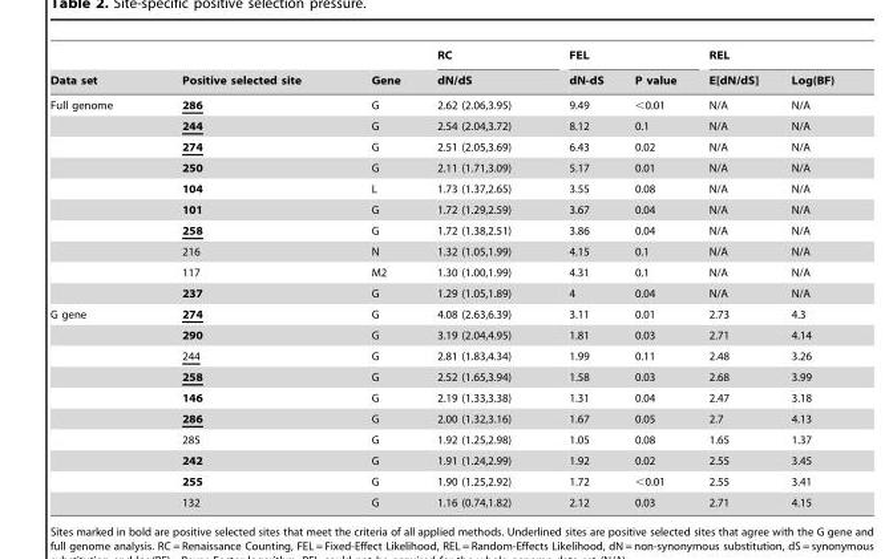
<table><thead><tr><td rowspan="2">Data set</td><td rowspan="2">Positive selected site</td><td rowspan="2">Gene</td><td rowspan="2">RC dN/dS</td><td colspan="2">FEL</td><td colspan="2">REL</td></tr><tr><td>dN-dS</td><td>P value</td><td>E[dN/dS]</td><td>Log(BF)</td></tr></thead><tbody><tr><td rowspan="10">Full genome</td><td>286</td><td>G</td><td>2.62 (2.06,3.95)</td><td>9.49</td><td>&lt;0.01</td><td>N/A</td><td>N/A</td></tr><tr><td>244</td><td>G</td><td>2.54 (2.04,3.72)</td><td>8.12</td><td>0.1</td><td>N/A</td><td>N/A</td></tr><tr><td>274</td><td>G</td><td>2.51 (2.05,3.69)</td><td>6.43</td><td>0.02</td><td>N/A</td><td>N/A</td></tr><tr><td>250</td><td>G</td><td>2.11 (1.71,3.09)</td><td>5.17</td><td>0.01</td><td>N/A</td><td>N/A</td></tr><tr><td>104</td><td>L</td><td>1.73 (1.37,2.65)</td><td>3.55</td><td>0.08</td><td>N/A</td><td>N/A</td></tr><tr><td>101</td><td>G</td><td>1.72 (1.29,2.59)</td><td>3.67</td><td>0.04</td><td>N/A</td><td>N/A</td></tr><tr><td>258</td><td>G</td><td>1.72 (1.38,2.51)</td><td>3.86</td><td>0.04</td><td>N/A</td><td>N/A</td></tr><tr><td>216</td><td>N</td><td>1.32 (1.05,1.99)</td><td>4.15</td><td>0.1</td><td>N/A</td><td>N/A</td></tr><tr><td>117</td><td>M2</td><td>1.30 (1.00,1.99)</td><td>4.31</td><td>0.1</td><td>N/A</td><td>N/A</td></tr><tr><td>237</td><td>G</td><td>1.29 (1.05,1.89)</td><td>4</td><td>0.04</td><td>N/A</td><td>N/A</td></tr><tr><td rowspan="10">G gene</td><td>274</td><td>G</td><td>4.08 (2.63,6.39)</td><td>3.11</td><td>0.01</td><td>2.73</td><td>4.3</td></tr><tr><td>290</td><td>G</td><td>3.19 (2.04,4.95)</td><td>1.81</td><td>0.03</td><td>2.71</td><td>4.14</td></tr><tr><td>244</td><td>G</td><td>2.81 (1.83,4.34)</td><td>1.99</td><td>0.11</td><td>2.48</td><td>3.26</td></tr><tr><td>258</td><td>G</td><td>2.52 (1.65,3.94)</td><td>1.58</td><td>0.03</td><td>2.68</td><td>3.99</td></tr><tr><td>146</td><td>G</td><td>2.19 (1.33,3.38)</td><td>1.31</td><td>0.04</td><td>2.47</td><td>3.18</td></tr><tr><td>286</td><td>G</td><td>2.00 (1.32,3.16)</td><td>1.67</td><td>0.05</td><td>2.7</td><td>4.13</td></tr><tr><td>285</td><td>G</td><td>1.92 (1.25,2.98)</td><td>1.05</td><td>0.08</td><td>1.65</td><td>1.37</td></tr><tr><td>242</td><td>G</td><td>1.91 (1.24,2.99)</td><td>1.92</td><td>0.02</td><td>2.55</td><td>3.45</td></tr><tr><td>255</td><td>G</td><td>1.90 (1.25,2.92)</td><td>1.72</td><td>&lt;0.01</td><td>2.55</td><td>3.41</td></tr><tr><td>132</td><td>G</td><td>1.16 (0.74,1.82)</td><td>2.12</td><td>0.03</td><td>2.71</td><td>4.15</td></tr></tbody></table>